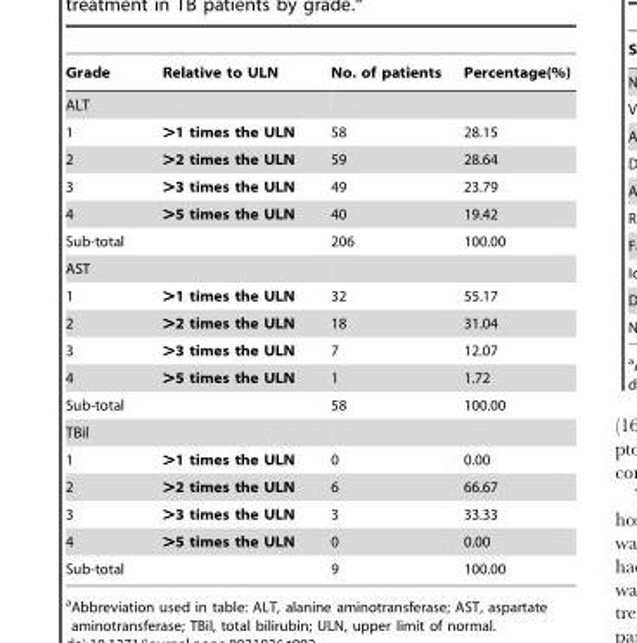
<table><thead><tr><td>Grade</td><td>Relative to ULN</td><td>No. of patients</td><td>Percentage(%)</td></tr></thead><tbody><tr><td colspan="4">ALT</td></tr><tr><td>1</td><td>&gt;1 times the ULN</td><td>58</td><td>28.15</td></tr><tr><td>2</td><td>&gt;2 times the ULN</td><td>59</td><td>28.64</td></tr><tr><td>3</td><td>&gt;3 times the ULN</td><td>49</td><td>23.79</td></tr><tr><td>4</td><td>&gt;5 times the ULN</td><td>40</td><td>19.42</td></tr><tr><td>Sub-total</td><td></td><td>206</td><td>100.00</td></tr><tr><td colspan="4">AST</td></tr><tr><td>1</td><td>&gt;1 times the ULN</td><td>32</td><td>55.17</td></tr><tr><td>2</td><td>&gt;2 times the ULN</td><td>18</td><td>31.04</td></tr><tr><td>3</td><td>&gt;3 times the ULN</td><td>7</td><td>12.07</td></tr><tr><td>4</td><td>&gt;5 times the ULN</td><td>1</td><td>1.72</td></tr><tr><td>Sub-total</td><td></td><td>58</td><td>100.00</td></tr><tr><td colspan="4">TBil</td></tr><tr><td>1</td><td>&gt;1 times the ULN</td><td>0</td><td>0.00</td></tr><tr><td>2</td><td>&gt;2 times the ULN</td><td>6</td><td>66.67</td></tr><tr><td>3</td><td>&gt;3 times the ULN</td><td>3</td><td>33.33</td></tr><tr><td>4</td><td>&gt;5 times the ULN</td><td>0</td><td>0.00</td></tr><tr><td>Sub-total</td><td></td><td>9</td><td>100.00</td></tr></tbody></table>